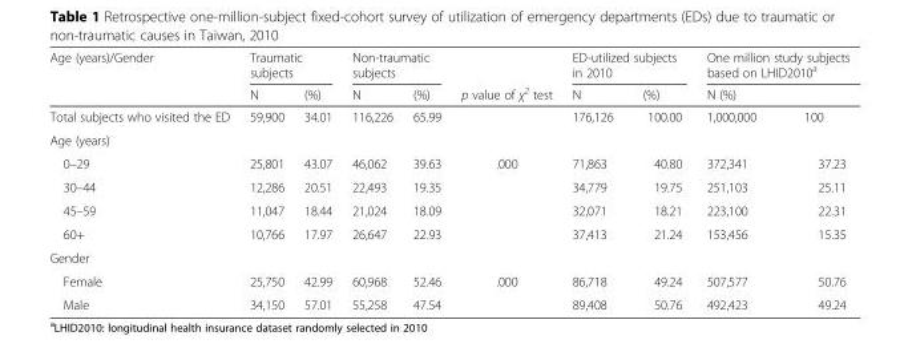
<table><thead><tr><td rowspan="3">Age (years)/Gender Total subjects who visited the ED</td><td colspan="2">Traumatic subjects</td><td colspan="2">Non-traumatic subjects</td><td rowspan="3">p value of χ<sup>2</sup> test</td><td colspan="2">ED-utilized subjects in 2010</td><td rowspan="2" colspan="2">One million study subjects based on LHID2010<sup>a</sup> N (%)</td></tr><tr><td rowspan="2">N 59,900</td><td rowspan="2">(%) 34.01</td><td rowspan="2">N 116,226</td><td rowspan="2">(%) 65.99</td><td rowspan="2">N 176,126</td><td rowspan="2">(%) 100.00</td></tr><tr><td>1,000,000</td><td>100</td></tr></thead><tbody><tr><td colspan="10">Age (years)</td></tr><tr><td>0–29</td><td>25,801</td><td>43.07</td><td>46,062</td><td>39.63</td><td rowspan="4">.000</td><td>71,863</td><td>40.80</td><td>372,341</td><td>37.23</td></tr><tr><td>30–44</td><td>12,286</td><td>20.51</td><td>22,493</td><td>19.35</td><td>34,779</td><td>19.75</td><td>251,103</td><td>25.11</td></tr><tr><td>45–59</td><td>11,047</td><td>18.44</td><td>21,024</td><td>18.09</td><td>32,071</td><td>18.21</td><td>223,100</td><td>22.31</td></tr><tr><td>60+</td><td>10,766</td><td>17.97</td><td>26,647</td><td>22.93</td><td>37,413</td><td>21.24</td><td>153,456</td><td>15.35</td></tr><tr><td colspan="10">Gender</td></tr><tr><td>Female</td><td>25,750</td><td>42.99</td><td>60,968</td><td>52.46</td><td rowspan="2">.000</td><td>86,718</td><td>49.24</td><td>507,577</td><td>50.76</td></tr><tr><td>Male</td><td>34,150</td><td>57.01</td><td>55,258</td><td>47.54</td><td>89,408</td><td>50.76</td><td>492,423</td><td>49.24</td></tr></tbody></table>